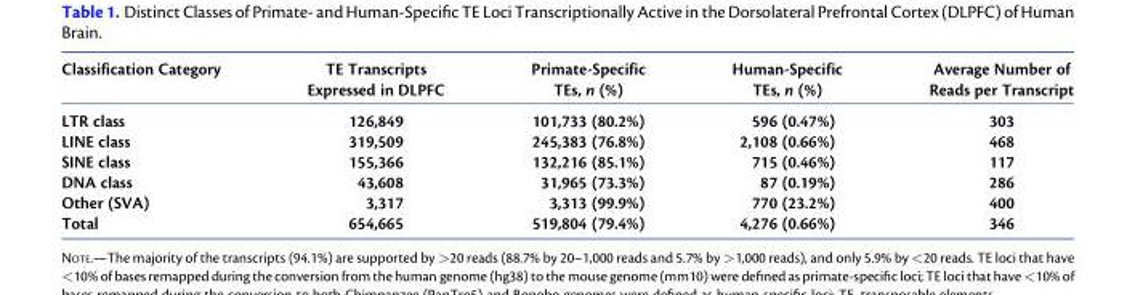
<table><thead><tr><td>Classification Category</td><td>TE Transcripts Expressed in DLPFC</td><td>Primate-Specific TEs, n (%)</td><td>Human-Specific TEs, n (%)</td><td>Average Number of Reads per Transcript</td></tr></thead><tbody><tr><td>LTR class</td><td>126,849</td><td>101,733 (80.2%)</td><td>596 (0.47%)</td><td>303</td></tr><tr><td>LINE class</td><td>319,509</td><td>245,383 (76.8%)</td><td>2,108 (0.66%)</td><td>468</td></tr><tr><td>SINE class</td><td>155,366</td><td>132,216 (85.1%)</td><td>715 (0.46%)</td><td>117</td></tr><tr><td>DNA class</td><td>43,608</td><td>31,965 (73.3%)</td><td>87 (0.19%)</td><td>286</td></tr><tr><td>Other (SVA)</td><td>3,317</td><td>3,313 (99.9%)</td><td>770 (23.2%)</td><td>400</td></tr><tr><td>Total</td><td>654,665</td><td>519,804 (79.4%)</td><td>4,276 (0.66%)</td><td>346</td></tr></tbody></table>